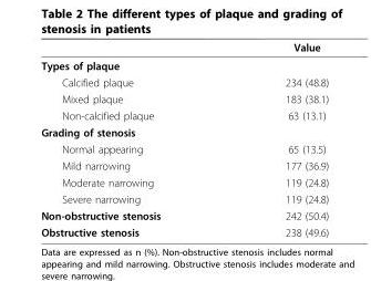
<table><thead><tr><td></td><td>Value</td></tr></thead><tbody><tr><td colspan="2">Types of plaque</td></tr><tr><td>Calcified plaque</td><td>234 (48.8)</td></tr><tr><td>Mixed plaque</td><td>183 (38.1)</td></tr><tr><td>Non-calcified plaque</td><td>63 (13.1)</td></tr><tr><td colspan="2">Grading of stenosis</td></tr><tr><td>Normal appearing</td><td>65 (13.5)</td></tr><tr><td>Mild narrowing</td><td>177 (36.9)</td></tr><tr><td>Moderate narrowing</td><td>119 (24.8)</td></tr><tr><td>Severe narrowing</td><td>119 (24.8)</td></tr><tr><td>Non-obstructive stenosis</td><td>242 (50.4)</td></tr><tr><td>Obstructive stenosis</td><td>238 (49.6)</td></tr></tbody></table>